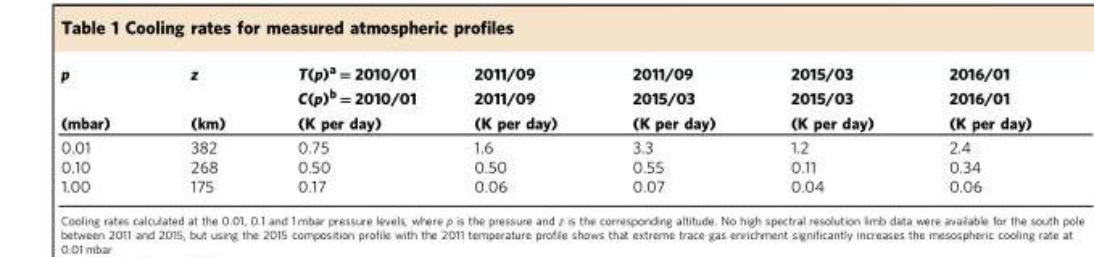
<table><thead><tr><td rowspan="3">p (mbar)</td><td rowspan="3">z (km)</td><td rowspan="3">T(p)<sup>a</sup> = 2010/01 C(p)<sup>b</sup> = 2010/01 (K per day)</td><td rowspan="3">2011/09 2011/09 (K per day)</td><td rowspan="3">2011/09 2015/03 (K per day)</td><td rowspan="3">2015/03 2015/03 (K per day)</td><td rowspan="3">2016/01 2016/01 (K per day)</td></tr><tr></tr><tr></tr></thead><tbody><tr><td>0.01</td><td>382</td><td>0.75</td><td>1.6</td><td>3.3</td><td>1.2</td><td>2.4</td></tr><tr><td>0.10</td><td>268</td><td>0.50</td><td>0.50</td><td>0.55</td><td>0.11</td><td>0.34</td></tr><tr><td>1.00</td><td>175</td><td>0.17</td><td>0.06</td><td>0.07</td><td>0.04</td><td>0.06</td></tr></tbody></table>